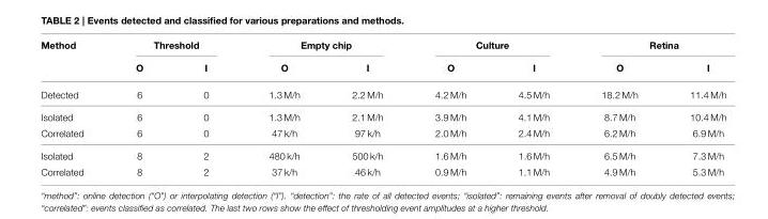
<table><thead><tr><td rowspan="2">Method</td><td colspan="2">Threshold</td><td colspan="2">Empty chip</td><td colspan="2">Culture</td><td colspan="2">Retina</td></tr><tr><td>O</td><td>I</td><td>O</td><td>I</td><td>O</td><td>I</td><td>O</td><td>I</td></tr></thead><tbody><tr><td>Detected</td><td>6</td><td>0</td><td>1.3 M/h</td><td>2.2 M/h</td><td>4.2 M/h</td><td>4.5 M/h</td><td>18.2 M/h</td><td>11.4 M/h</td></tr><tr><td>Isolated</td><td>6</td><td>0</td><td>1.3 M/h</td><td>2.1 M/h</td><td>3.9 M/h</td><td>4.1 M/h</td><td>8.7 M/h</td><td>10.4 M/h</td></tr><tr><td>Correlated</td><td>6</td><td>0</td><td>47 k/h</td><td>97 k/h</td><td>2.0 M/h</td><td>2.4 M/h</td><td>6.2 M/h</td><td>6.9 M/h</td></tr><tr><td>Isolated</td><td>8</td><td>2</td><td>480 k/h</td><td>500 k/h</td><td>1.6 M/h</td><td>1.6 M/h</td><td>6.5 M/h</td><td>7.3 M/h</td></tr><tr><td>Correlated</td><td>8</td><td>2</td><td>37 k/h</td><td>46 k/h</td><td>0.9 M/h</td><td>1.1 M/h</td><td>4.9 M/h</td><td>5.3 M/h</td></tr></tbody></table>